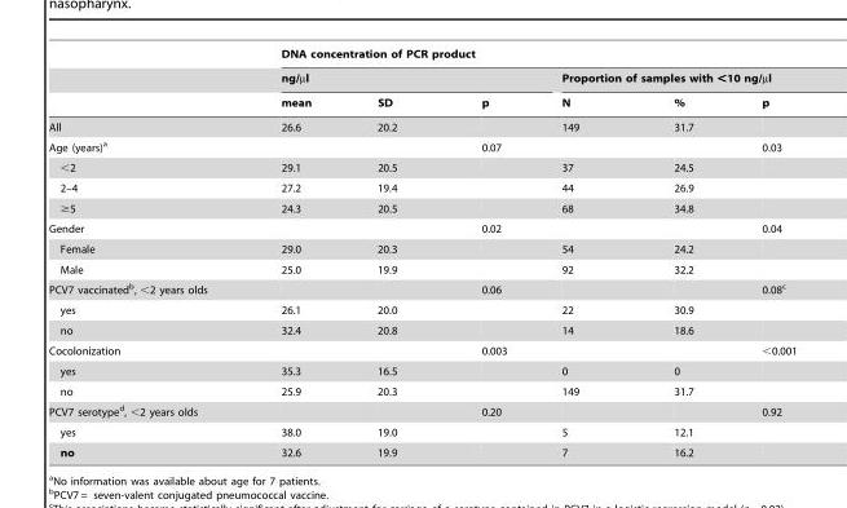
<table><thead><tr><td rowspan="3"></td><td colspan="6">DNA concentration of PCR product</td></tr><tr><td colspan="3">ng/µl</td><td colspan="3">Proportion of samples with &lt;10 ng/µl</td></tr><tr><td>mean</td><td>SD</td><td>p</td><td>N</td><td>%</td><td>p</td></tr></thead><tbody><tr><td>All</td><td>26.6</td><td>20.2</td><td></td><td>149</td><td>31.7</td><td></td></tr><tr><td>Age (years)<sup>a</sup></td><td></td><td></td><td>0.07</td><td></td><td></td><td>0.03</td></tr><tr><td>&lt;2</td><td>29.1</td><td>20.5</td><td></td><td>37</td><td>24.5</td><td></td></tr><tr><td>2–4</td><td>27.2</td><td>19.4</td><td></td><td>44</td><td>26.9</td><td></td></tr><tr><td>≥5</td><td>24.3</td><td>20.5</td><td></td><td>68</td><td>34.8</td><td></td></tr><tr><td>Gender</td><td></td><td></td><td>0.02</td><td></td><td></td><td>0.04</td></tr><tr><td>Female</td><td>29.0</td><td>20.3</td><td></td><td>54</td><td>24.2</td><td></td></tr><tr><td>Male</td><td>25.0</td><td>19.9</td><td></td><td>92</td><td>32.2</td><td></td></tr><tr><td>PCV7 vaccinated<sup>b</sup>, &lt;2 years olds</td><td></td><td></td><td>0.06</td><td></td><td></td><td>0.08<sup>c</sup></td></tr><tr><td>yes</td><td>26.1</td><td>20.0</td><td></td><td>22</td><td>30.9</td><td></td></tr><tr><td>no</td><td>32.4</td><td>20.8</td><td></td><td>14</td><td>18.6</td><td></td></tr><tr><td>Cocolonization</td><td></td><td></td><td>0.003</td><td></td><td></td><td>&lt;0.001</td></tr><tr><td>yes</td><td>35.3</td><td>16.5</td><td></td><td>0</td><td>0</td><td></td></tr><tr><td>no</td><td>25.9</td><td>20.3</td><td></td><td>149</td><td>31.7</td><td></td></tr><tr><td>PCV7 serotype<sup>d</sup>, &lt;2 years olds</td><td></td><td></td><td>0.20</td><td></td><td></td><td>0.92</td></tr><tr><td>yes</td><td>38.0</td><td>19.0</td><td></td><td>5</td><td>12.1</td><td></td></tr><tr><td>no</td><td>32.6</td><td>19.9</td><td></td><td>7</td><td>16.2</td><td></td></tr></tbody></table>